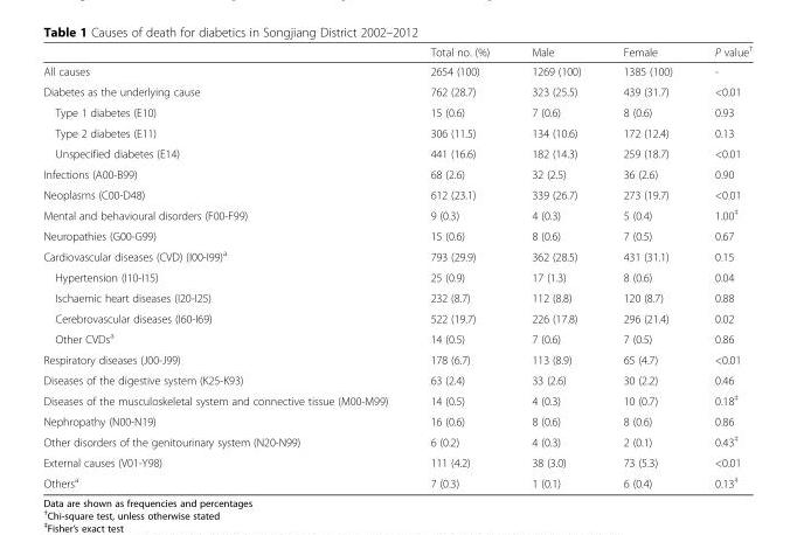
<table><thead><tr><td></td><td>Total no. (%)</td><td>Male</td><td>Female</td><td>P value<sup>†</sup></td></tr></thead><tbody><tr><td>All causes</td><td>2654 (100)</td><td>1269 (100)</td><td>1385 (100)</td><td>-</td></tr><tr><td>Diabetes as the underlying cause</td><td>762 (28.7)</td><td>323 (25.5)</td><td>439 (31.7)</td><td>&lt;0.01</td></tr><tr><td>Type 1 diabetes (E10)</td><td>15 (0.6)</td><td>7 (0.6)</td><td>8 (0.6)</td><td>0.93</td></tr><tr><td>Type 2 diabetes (E11)</td><td>306 (11.5)</td><td>134 (10.6)</td><td>172 (12.4)</td><td>0.13</td></tr><tr><td>Unspecified diabetes (E14)</td><td>441 (16.6)</td><td>182 (14.3)</td><td>259 (18.7)</td><td>&lt;0.01</td></tr><tr><td>Infections (A00-B99)</td><td>68 (2.6)</td><td>32 (2.5)</td><td>36 (2.6)</td><td>0.90</td></tr><tr><td>Neoplasms (C00-D48)</td><td>612 (23.1)</td><td>339 (26.7)</td><td>273 (19.7)</td><td>&lt;0.01</td></tr><tr><td>Mental and behavioural disorders (F00-F99)</td><td>9 (0.3)</td><td>4 (0.3)</td><td>5 (0.4)</td><td>1.00<sup>‡</sup></td></tr><tr><td>Neuropathies (G00-G99)</td><td>15 (0.6)</td><td>8 (0.6)</td><td>7 (0.5)</td><td>0.67</td></tr><tr><td>Cardiovascular diseases (CVD) (I00-I99)<sup>a</sup></td><td>793 (29.9)</td><td>362 (28.5)</td><td>431 (31.1)</td><td>0.15</td></tr><tr><td>Hypertension (I10-I15)</td><td>25 (0.9)</td><td>17 (1.3)</td><td>8 (0.6)</td><td>0.04</td></tr><tr><td>Ischaemic heart diseases (I20-I25)</td><td>232 (8.7)</td><td>112 (8.8)</td><td>120 (8.7)</td><td>0.88</td></tr><tr><td>Cerebrovascular diseases (I60-I69)</td><td>522 (19.7)</td><td>226 (17.8)</td><td>296 (21.4)</td><td>0.02</td></tr><tr><td>Other CVDs<sup>a</sup></td><td>14 (0.5)</td><td>7 (0.6)</td><td>7 (0.5)</td><td>0.86</td></tr><tr><td>Respiratory diseases (J00-J99)</td><td>178 (6.7)</td><td>113 (8.9)</td><td>65 (4.7)</td><td>&lt;0.01</td></tr><tr><td>Diseases of the digestive system (K25-K93)</td><td>63 (2.4)</td><td>33 (2.6)</td><td>30 (2.2)</td><td>0.46</td></tr><tr><td>Diseases of the musculoskeletal system and connective tissue (M00-M99)</td><td>14 (0.5)</td><td>4 (0.3)</td><td>10 (0.7)</td><td>0.18<sup>‡</sup></td></tr><tr><td>Nephropathy (N00-N19)</td><td>16 (0.6)</td><td>8 (0.6)</td><td>8 (0.6)</td><td>0.86</td></tr><tr><td>Other disorders of the genitourinary system (N20-N99)</td><td>6 (0.2)</td><td>4 (0.3)</td><td>2 (0.1)</td><td>0.43<sup>‡</sup></td></tr><tr><td>External causes (V01-Y98)</td><td>111 (4.2)</td><td>38 (3.0)</td><td>73 (5.3)</td><td>&lt;0.01</td></tr><tr><td>Others<sup>a</sup></td><td>7 (0.3)</td><td>1 (0.1)</td><td>6 (0.4)</td><td>0.13<sup>‡</sup></td></tr></tbody></table>